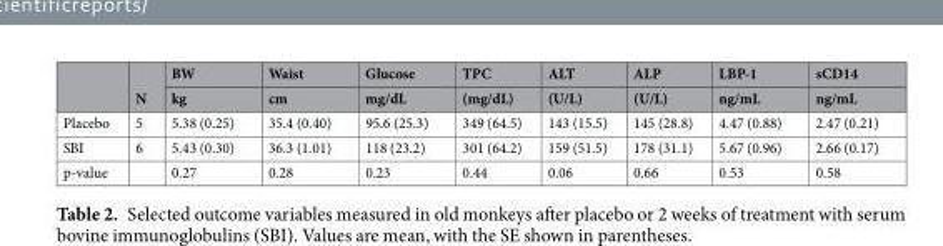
<table><thead><tr><td rowspan="2"></td><td rowspan="2">N</td><td rowspan="2">BW kg</td><td rowspan="2">Waist cm</td><td rowspan="2">Glucose mg/dL</td><td rowspan="2">TPC (mg/dL)</td><td rowspan="2">ALT (U/L)</td><td rowspan="2">ALP (U/L)</td><td rowspan="2">LBP-1 ng/mL</td><td rowspan="2">sCD14 ng/mL</td></tr><tr></tr></thead><tbody><tr><td>Placebo</td><td>5</td><td>5.38 (0.25)</td><td>35.4 (0.40)</td><td>95.6 (25.3)</td><td>349 (64.5)</td><td>143 (15.5)</td><td>145 (28.8)</td><td>4.47 (0.88)</td><td>2.47 (0.21)</td></tr><tr><td>SBI</td><td>6</td><td>5.43 (0.30)</td><td>36.3 (1.01)</td><td>118 (23.2)</td><td>301 (64.2)</td><td>159 (51.5)</td><td>178 (31.1)</td><td>5.67 (0.96)</td><td>2.66 (0.17)</td></tr><tr><td>p-value</td><td></td><td>0.27</td><td>0.28</td><td>0.23</td><td>0.44</td><td>0.06</td><td>0.66</td><td>0.53</td><td>0.58</td></tr></tbody></table>